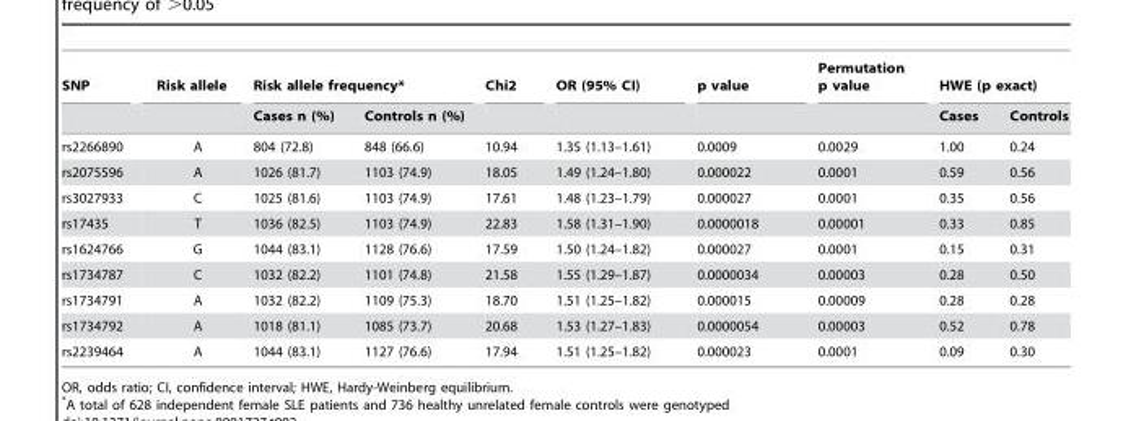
<table><thead><tr><td rowspan="2">SNP</td><td rowspan="2">Risk allele</td><td colspan="2">Risk allele frequency*</td><td rowspan="2">Chi2</td><td rowspan="2">OR (95% CI)</td><td rowspan="2">p value</td><td rowspan="2">Permutation p value</td><td colspan="2">HWE (p exact)</td></tr><tr><td>Cases n (%)</td><td>Controls n (%)</td><td>Cases</td><td>Controls</td></tr></thead><tbody><tr><td>rs2266890</td><td>A</td><td>804 (72.8)</td><td>848 (66.6)</td><td>10.94</td><td>1.35 (1.13–1.61)</td><td>0.0009</td><td>0.0029</td><td>1.00</td><td>0.24</td></tr><tr><td>rs2075596</td><td>A</td><td>1026 (81.7)</td><td>1103 (74.9)</td><td>18.05</td><td>1.49 (1.24–1.80)</td><td>0.000022</td><td>0.0001</td><td>0.59</td><td>0.56</td></tr><tr><td>rs3027933</td><td>C</td><td>1025 (81.6)</td><td>1103 (74.9)</td><td>17.61</td><td>1.48 (1.23–1.79)</td><td>0.000027</td><td>0.0001</td><td>0.35</td><td>0.56</td></tr><tr><td>rs17435</td><td>T</td><td>1036 (82.5)</td><td>1103 (74.9)</td><td>22.83</td><td>1.58 (1.31–1.90)</td><td>0.0000018</td><td>0.00001</td><td>0.33</td><td>0.85</td></tr><tr><td>rs1624766</td><td>G</td><td>1044 (83.1)</td><td>1128 (76.6)</td><td>17.59</td><td>1.50 (1.24–1.82)</td><td>0.000027</td><td>0.0001</td><td>0.15</td><td>0.31</td></tr><tr><td>rs1734787</td><td>C</td><td>1032 (82.2)</td><td>1101 (74.8)</td><td>21.58</td><td>1.55 (1.29–1.87)</td><td>0.0000034</td><td>0.00003</td><td>0.28</td><td>0.50</td></tr><tr><td>rs1734791</td><td>A</td><td>1032 (82.2)</td><td>1109 (75.3)</td><td>18.70</td><td>1.51 (1.25–1.82)</td><td>0.000015</td><td>0.00009</td><td>0.28</td><td>0.28</td></tr><tr><td>rs1734792</td><td>A</td><td>1018 (81.1)</td><td>1085 (73.7)</td><td>20.68</td><td>1.53 (1.27–1.83)</td><td>0.0000054</td><td>0.00003</td><td>0.52</td><td>0.78</td></tr><tr><td>rs2239464</td><td>A</td><td>1044 (83.1)</td><td>1127 (76.6)</td><td>17.94</td><td>1.51 (1.25–1.82)</td><td>0.000023</td><td>0.0001</td><td>0.09</td><td>0.30</td></tr></tbody></table>